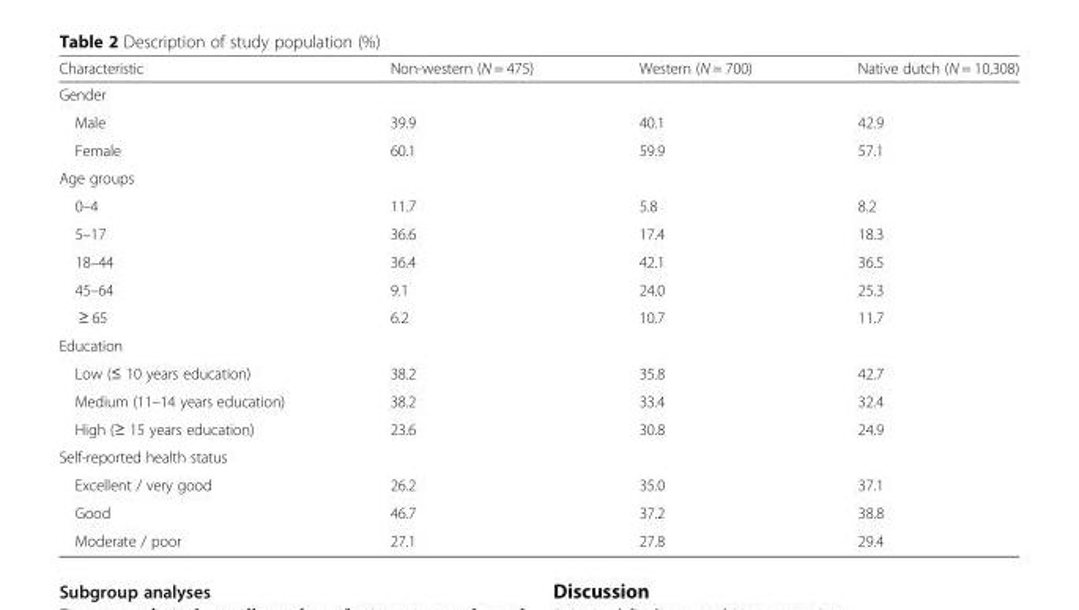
<table><thead><tr><td>Characteristic</td><td>Non-western (N = 475)</td><td>Western (N = 700)</td><td>Native dutch (N = 10,308)</td></tr></thead><tbody><tr><td colspan="4">Gender</td></tr><tr><td>Male</td><td>39.9</td><td>40.1</td><td>42.9</td></tr><tr><td>Female</td><td>60.1</td><td>59.9</td><td>57.1</td></tr><tr><td colspan="4">Age groups</td></tr><tr><td>0–4</td><td>11.7</td><td>5.8</td><td>8.2</td></tr><tr><td>5–17</td><td>36.6</td><td>17.4</td><td>18.3</td></tr><tr><td>18–44</td><td>36.4</td><td>42.1</td><td>36.5</td></tr><tr><td>45–64</td><td>9.1</td><td>24.0</td><td>25.3</td></tr><tr><td>≥ 65</td><td>6.2</td><td>10.7</td><td>11.7</td></tr><tr><td colspan="4">Education</td></tr><tr><td>Low (≤ 10 years education)</td><td>38.2</td><td>35.8</td><td>42.7</td></tr><tr><td>Medium (11–14 years education)</td><td>38.2</td><td>33.4</td><td>32.4</td></tr><tr><td>High (≥ 15 years education)</td><td>23.6</td><td>30.8</td><td>24.9</td></tr><tr><td colspan="4">Self-reported health status</td></tr><tr><td>Excellent / very good</td><td>26.2</td><td>35.0</td><td>37.1</td></tr><tr><td>Good</td><td>46.7</td><td>37.2</td><td>38.8</td></tr><tr><td>Moderate / poor</td><td>27.1</td><td>27.8</td><td>29.4</td></tr></tbody></table>